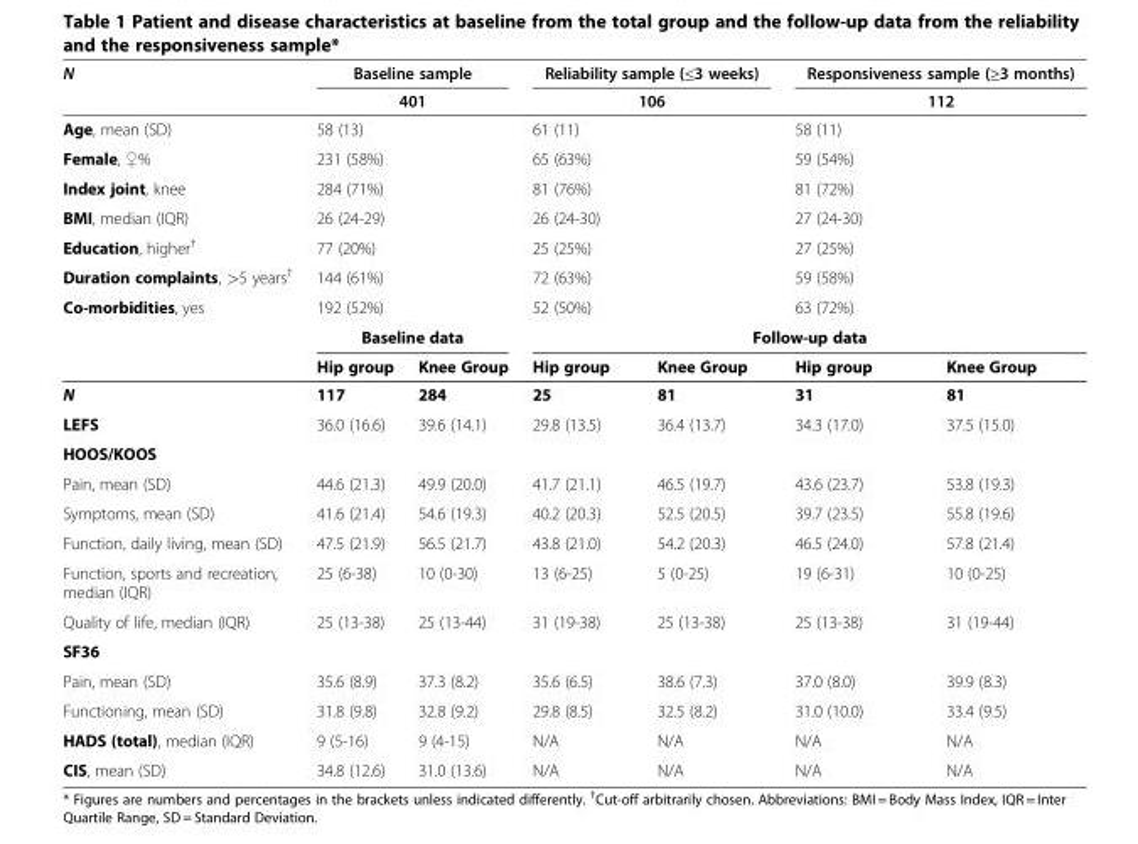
<table><thead><tr><td rowspan="2">N</td><td rowspan="2" colspan="2">Baseline sample 401</td><td rowspan="2" colspan="2">Reliability sample (≤3 weeks) 106</td><td rowspan="2" colspan="2">Responsiveness sample (≥3 months) 112</td></tr><tr></tr></thead><tbody><tr><td>Age, mean (SD)</td><td colspan="2">58 (13)</td><td colspan="2">61 (11)</td><td colspan="2">58 (11)</td></tr><tr><td>Female, ♀%</td><td colspan="2">231 (58%)</td><td colspan="2">65 (63%)</td><td colspan="2">59 (54%)</td></tr><tr><td>Index joint, knee</td><td colspan="2">284 (71%)</td><td colspan="2">81 (76%)</td><td colspan="2">81 (72%)</td></tr><tr><td>BMI, median (IQR)</td><td colspan="2">26 (24-29)</td><td colspan="2">26 (24-30)</td><td colspan="2">27 (24-30)</td></tr><tr><td>Education, higher<sup>†</sup></td><td colspan="2">77 (20%)</td><td colspan="2">25 (25%)</td><td colspan="2">27 (25%)</td></tr><tr><td>Duration complaints, &gt;5 years<sup>†</sup></td><td colspan="2">144 (61%)</td><td colspan="2">72 (63%)</td><td colspan="2">59 (58%)</td></tr><tr><td rowspan="3">Co-morbidities, yes</td><td colspan="2">192 (52%)</td><td colspan="2">52 (50%)</td><td colspan="2">63 (72%)</td></tr><tr><td colspan="2">Baseline data</td><td colspan="4">Follow-up data</td></tr><tr><td>Hip group</td><td>Knee Group</td><td>Hip group</td><td>Knee Group</td><td>Hip group</td><td>Knee Group</td></tr><tr><td>N</td><td>117</td><td>284</td><td>25</td><td>81</td><td>31</td><td>81</td></tr><tr><td>LEFS</td><td>36.0 (16.6)</td><td>39.6 (14.1)</td><td>29.8 (13.5)</td><td>36.4 (13.7)</td><td>34.3 (17.0)</td><td>37.5 (15.0)</td></tr><tr><td colspan="7">HOOS/KOOS</td></tr><tr><td>Pain, mean (SD)</td><td>44.6 (21.3)</td><td>49.9 (20.0)</td><td>41.7 (21.1)</td><td>46.5 (19.7)</td><td>43.6 (23.7)</td><td>53.8 (19.3)</td></tr><tr><td>Symptoms, mean (SD)</td><td>41.6 (21.4)</td><td>54.6 (19.3)</td><td>40.2 (20.3)</td><td>52.5 (20.5)</td><td>39.7 (23.5)</td><td>55.8 (19.6)</td></tr><tr><td>Function, daily living, mean (SD)</td><td>47.5 (21.9)</td><td>56.5 (21.7)</td><td>43.8 (21.0)</td><td>54.2 (20.3)</td><td>46.5 (24.0)</td><td>57.8 (21.4)</td></tr><tr><td>Function, sports and recreation, median (IQR)</td><td>25 (6-38)</td><td>10 (0-30)</td><td>13 (6-25)</td><td>5 (0-25)</td><td>19 (6-31)</td><td>10 (0-25)</td></tr><tr><td>Quality of life, median (IQR)</td><td>25 (13-38)</td><td>25 (13-44)</td><td>31 (19-38)</td><td>25 (13-38)</td><td>25 (13-38)</td><td>31 (19-44)</td></tr><tr><td colspan="7">SF36</td></tr><tr><td>Pain, mean (SD)</td><td>35.6 (8.9)</td><td>37.3 (8.2)</td><td>35.6 (6.5)</td><td>38.6 (7.3)</td><td>37.0 (8.0)</td><td>39.9 (8.3)</td></tr><tr><td>Functioning, mean (SD)</td><td>31.8 (9.8)</td><td>32.8 (9.2)</td><td>29.8 (8.5)</td><td>32.5 (8.2)</td><td>31.0 (10.0)</td><td>33.4 (9.5)</td></tr><tr><td>HADS (total), median (IQR)</td><td>9 (5-16)</td><td>9 (4-15)</td><td>N/A</td><td>N/A</td><td>N/A</td><td>N/A</td></tr><tr><td>CIS, mean (SD)</td><td>34.8 (12.6)</td><td>31.0 (13.6)</td><td>N/A</td><td>N/A</td><td>N/A</td><td>N/A</td></tr></tbody></table>